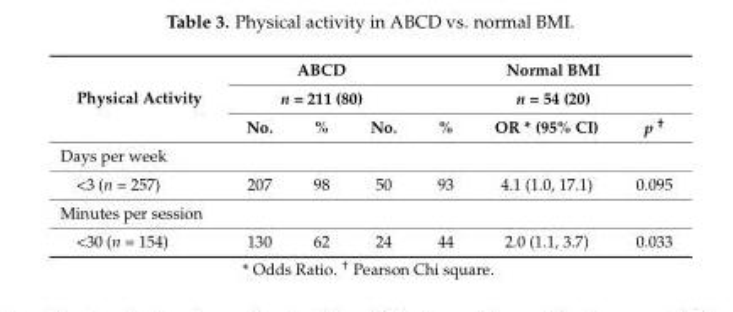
<table><thead><tr><td rowspan="3">Physical Activity</td><td rowspan="2" colspan="3">ABCD n = 211 (80)</td><td rowspan="2" colspan="3">Normal BMI n = 54 (20)</td></tr><tr></tr><tr><td>No.</td><td>%</td><td>No.</td><td>%</td><td>OR * (95% CI)</td><td>p <sup>†</sup></td></tr></thead><tbody><tr><td colspan="7">Days per week</td></tr><tr><td>&lt;3 (n = 257)</td><td>207</td><td>98</td><td>50</td><td>93</td><td>4.1 (1.0, 17.1)</td><td>0.095</td></tr><tr><td colspan="7">Minutes per session</td></tr><tr><td>&lt;30 (n = 154)</td><td>130</td><td>62</td><td>24</td><td>44</td><td>2.0 (1.1, 3.7)</td><td>0.033</td></tr></tbody></table>